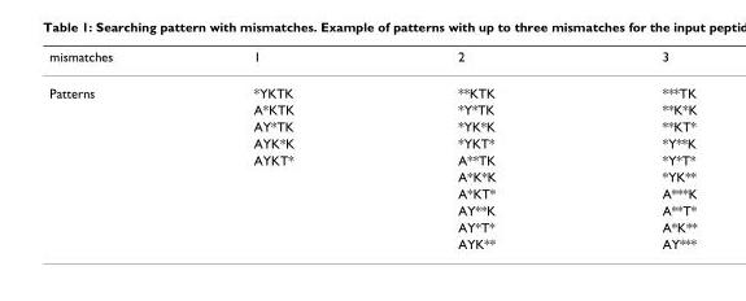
<table><thead><tr><td>mismatches</td><td>1</td><td>2</td><td>3</td></tr></thead><tbody><tr><td rowspan="10">Patterns</td><td>*YKTK</td><td>**KTK</td><td>***TK</td></tr><tr><td>A*KTK</td><td>*Y*TK</td><td>**K*K</td></tr><tr><td>AY*TK</td><td>*YK*K</td><td>**KT*</td></tr><tr><td>AYK*K</td><td>*YKT*</td><td>*Y**K</td></tr><tr><td>AYKT*</td><td>A**TK</td><td>*Y*T*</td></tr><tr><td></td><td>A*K*K</td><td>*YK**</td></tr><tr><td></td><td>A*KT*</td><td>A***K</td></tr><tr><td></td><td>AY**K</td><td>A**T*</td></tr><tr><td></td><td>AY*T*</td><td>A*K**</td></tr><tr><td></td><td>AYK**</td><td>AY***</td></tr></tbody></table>